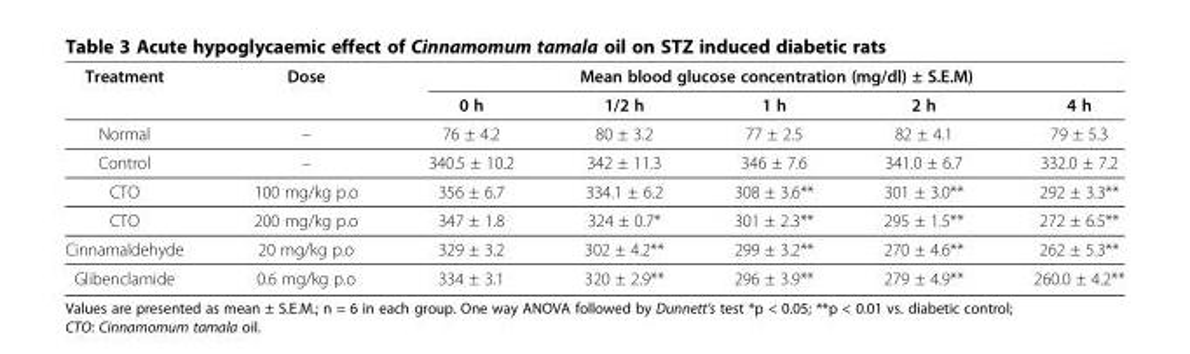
<table><thead><tr><td rowspan="2">Treatment</td><td rowspan="2">Dose</td><td colspan="5">Mean blood glucose concentration (mg/dl) ± S.E.M)</td></tr><tr><td>0 h</td><td>1/2 h</td><td>1 h</td><td>2 h</td><td>4 h</td></tr></thead><tbody><tr><td>Normal</td><td>–</td><td>76 ± 4.2</td><td>80 ± 3.2</td><td>77 ± 2.5</td><td>82 ± 4.1</td><td>79 ± 5.3</td></tr><tr><td>Control</td><td>–</td><td>340.5 ± 10.2</td><td>342 ± 11.3</td><td>346 ± 7.6</td><td>341.0 ± 6.7</td><td>332.0 ± 7.2</td></tr><tr><td>CTO</td><td>100 mg/kg p.o</td><td>356 ± 6.7</td><td>334.1 ± 6.2</td><td>308 ± 3.6**</td><td>301 ± 3.0**</td><td>292 ± 3.3**</td></tr><tr><td>CTO</td><td>200 mg/kg p.o</td><td>347 ± 1.8</td><td>324 ± 0.7*</td><td>301 ± 2.3**</td><td>295 ± 1.5**</td><td>272 ± 6.5**</td></tr><tr><td>Cinnamaldehyde</td><td>20 mg/kg p.o</td><td>329 ± 3.2</td><td>302 ± 4.2**</td><td>299 ± 3.2**</td><td>270 ± 4.6**</td><td>262 ± 5.3**</td></tr><tr><td>Glibenclamide</td><td>0.6 mg/kg p.o</td><td>334 ± 3.1</td><td>320 ± 2.9**</td><td>296 ± 3.9**</td><td>279 ± 4.9**</td><td>260.0 ± 4.2**</td></tr></tbody></table>